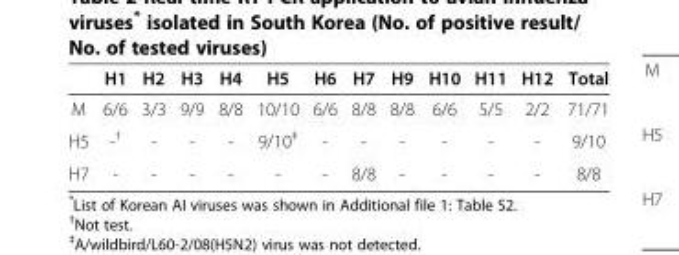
<table><thead><tr><td></td><td>H1</td><td>H2</td><td>H3</td><td>H4</td><td>H5</td><td>H6</td><td>H7</td><td>H9</td><td>H10</td><td>H11</td><td>H12</td><td>Total</td></tr></thead><tbody><tr><td>M</td><td>6/6</td><td>3/3</td><td>9/9</td><td>8/8</td><td>10/10</td><td>6/6</td><td>8/8</td><td>8/8</td><td>6/6</td><td>5/5</td><td>2/2</td><td>71/71</td></tr><tr><td>H5</td><td>-<sup>†</sup></td><td>-</td><td>-</td><td>-</td><td>9/10<sup>‡</sup></td><td>-</td><td>-</td><td>-</td><td>-</td><td>-</td><td>-</td><td>9/10</td></tr><tr><td>H7</td><td>-</td><td>-</td><td>-</td><td>-</td><td>-</td><td>-</td><td>8/8</td><td>-</td><td>-</td><td>-</td><td>-</td><td>8/8</td></tr></tbody></table>